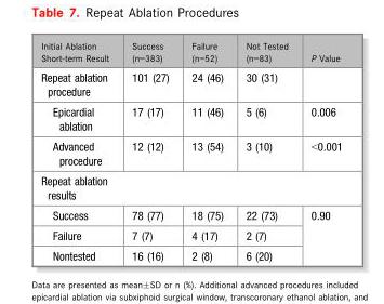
<table><thead><tr><td>Initial Ablation Short-term Result</td><td>Success (n=383)</td><td>Failure (n=52)</td><td>Not Tested (n=83)</td><td>P Value</td></tr></thead><tbody><tr><td>Repeat ablation procedure</td><td>101 (27)</td><td>24 (46)</td><td>30 (31)</td><td></td></tr><tr><td>Epicardial ablation</td><td>17 (17)</td><td>11 (46)</td><td>5 (6)</td><td>0.006</td></tr><tr><td>Advanced procedure</td><td>12 (12)</td><td>13 (54)</td><td>3 (10)</td><td>&lt;0.001</td></tr><tr><td colspan="5">Repeat ablation results</td></tr><tr><td>Success</td><td>78 (77)</td><td>18 (75)</td><td>22 (73)</td><td rowspan="3">0.90</td></tr><tr><td>Failure</td><td>7 (7)</td><td>4 (17)</td><td>2 (7)</td></tr><tr><td>Nontested</td><td>16 (16)</td><td>2 (8)</td><td>6 (20)</td></tr></tbody></table>